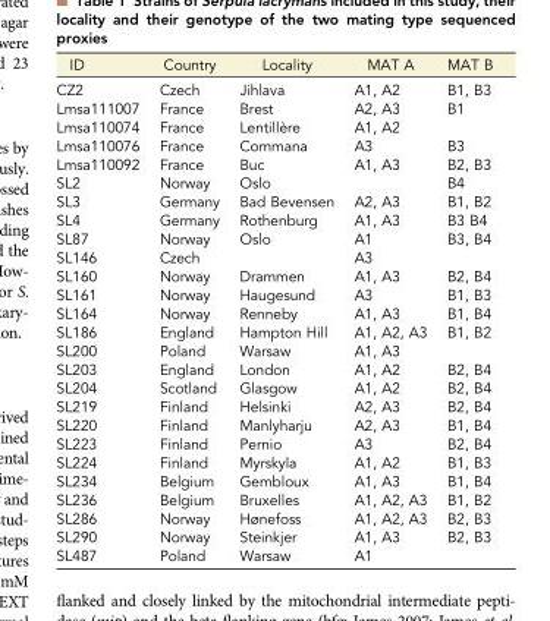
<table><thead><tr><td>ID</td><td>Country</td><td>Locality</td><td>MAT A</td><td>MAT B</td></tr></thead><tbody><tr><td>CZ2</td><td>Czech</td><td>Jihlava</td><td>A1, A2</td><td>B1, B3</td></tr><tr><td>Lmsa111007</td><td>France</td><td>Brest</td><td>A2, A3</td><td>B1</td></tr><tr><td>Lmsa110074</td><td>France</td><td>Lentillère</td><td>A1, A2</td><td></td></tr><tr><td>Lmsa110076</td><td>France</td><td>Commana</td><td>A3</td><td>B3</td></tr><tr><td>Lmsa110092</td><td>France</td><td>Buc</td><td>A1, A3</td><td>B2, B3</td></tr><tr><td>SL2</td><td>Norway</td><td>Oslo</td><td></td><td>B4</td></tr><tr><td>SL3</td><td>Germany</td><td>Bad Bevensen</td><td>A2, A3</td><td>B1, B2</td></tr><tr><td>SL4</td><td>Germany</td><td>Rothenburg</td><td>A1, A3</td><td>B3 B4</td></tr><tr><td>SL87</td><td>Norway</td><td>Oslo</td><td>A1</td><td>B3, B4</td></tr><tr><td>SL146</td><td>Czech</td><td></td><td>A3</td><td></td></tr><tr><td>SL160</td><td>Norway</td><td>Drammen</td><td>A1, A3</td><td>B2, B4</td></tr><tr><td>SL161</td><td>Norway</td><td>Haugesund</td><td>A3</td><td>B1, B3</td></tr><tr><td>SL164</td><td>Norway</td><td>Renneby</td><td>A1, A3</td><td>B1, B4</td></tr><tr><td>SL186</td><td>England</td><td>Hampton Hill</td><td>A1, A2, A3</td><td>B1, B2</td></tr><tr><td>SL200</td><td>Poland</td><td>Warsaw</td><td>A1, A3</td><td></td></tr><tr><td>SL203</td><td>England</td><td>London</td><td>A1, A2</td><td>B2, B4</td></tr><tr><td>SL204</td><td>Scotland</td><td>Glasgow</td><td>A1, A2</td><td>B2, B4</td></tr><tr><td>SL219</td><td>Finland</td><td>Helsinki</td><td>A2, A3</td><td>B2, B4</td></tr><tr><td>SL220</td><td>Finland</td><td>Manlyharju</td><td>A2, A3</td><td>B1, B4</td></tr><tr><td>SL223</td><td>Finland</td><td>Pernio</td><td>A3</td><td>B2, B4</td></tr><tr><td>SL224</td><td>Finland</td><td>Myrskyla</td><td>A1, A2</td><td>B1, B3</td></tr><tr><td>SL234</td><td>Belgium</td><td>Gembloux</td><td>A1, A3</td><td>B1, B4</td></tr><tr><td>SL236</td><td>Belgium</td><td>Bruxelles</td><td>A1, A2, A3</td><td>B1, B2</td></tr><tr><td>SL286</td><td>Norway</td><td>Hønefoss</td><td>A1, A2, A3</td><td>B2, B3</td></tr><tr><td>SL290</td><td>Norway</td><td>Steinkjer</td><td>A1, A3</td><td>B2, B3</td></tr><tr><td>SL487</td><td>Poland</td><td>Warsaw</td><td>A1</td><td></td></tr></tbody></table>